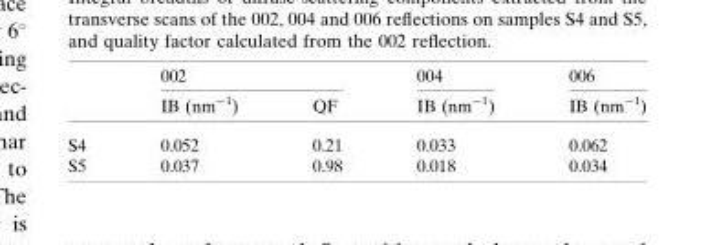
<table><thead><tr><td rowspan="2"></td><td colspan="2">002</td><td rowspan="2">004 IB (nm�1)</td><td rowspan="2">006 IB (nm�1)</td></tr><tr><td>IB (nm�1)</td><td>QF</td></tr></thead><tbody><tr><td>S4</td><td>0.052</td><td>0.21</td><td>0.033</td><td>0.062</td></tr><tr><td>S5</td><td>0.037</td><td>0.98</td><td>0.018</td><td>0.034</td></tr></tbody></table>